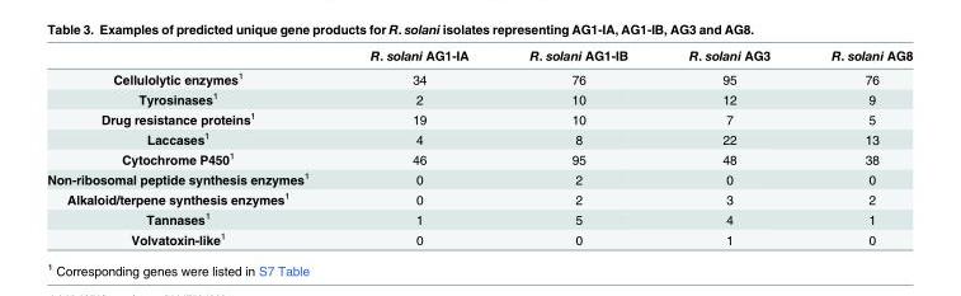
<table><thead><tr><td></td><td>R. solani AG1-IA</td><td>R. solani AG1-IB</td><td>R. solani AG3</td><td>R. solani AG8</td></tr></thead><tbody><tr><td>Cellulolytic enzymes<sup>1</sup></td><td>34</td><td>76</td><td>95</td><td>76</td></tr><tr><td>Tyrosinases<sup>1</sup></td><td>2</td><td>10</td><td>12</td><td>9</td></tr><tr><td>Drug resistance proteins<sup>1</sup></td><td>19</td><td>10</td><td>7</td><td>5</td></tr><tr><td>Laccases<sup>1</sup></td><td>4</td><td>8</td><td>22</td><td>13</td></tr><tr><td>Cytochrome P450<sup>1</sup></td><td>46</td><td>95</td><td>48</td><td>38</td></tr><tr><td>Non-ribosomal peptide synthesis enzymes<sup>1</sup></td><td>0</td><td>2</td><td>0</td><td>0</td></tr><tr><td>Alkaloid/terpene synthesis enzymes<sup>1</sup></td><td>0</td><td>2</td><td>3</td><td>2</td></tr><tr><td>Tannases<sup>1</sup></td><td>1</td><td>5</td><td>4</td><td>1</td></tr><tr><td>Volvatoxin-like<sup>1</sup></td><td>0</td><td>0</td><td>1</td><td>0</td></tr></tbody></table>